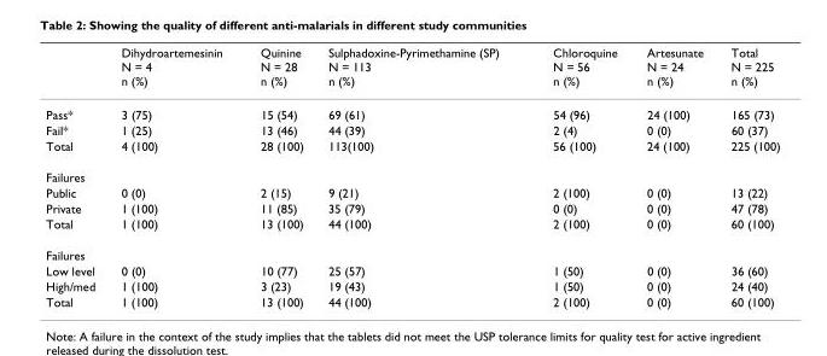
<table><thead><tr><td></td><td>Dihydroartemesinin N = 4 n (%)</td><td>Quinine N = 28 n (%)</td><td>Sulphadoxine-Pyrimethamine (SP) N = 113 n (%)</td><td>Chloroquine N = 56 n (%)</td><td>Artesunate N = 24 n (%)</td><td>Total N = 225 n (%)</td></tr></thead><tbody><tr><td>Pass*</td><td>3 (75)</td><td>15 (54)</td><td>69 (61)</td><td>54 (96)</td><td>24 (100)</td><td>165 (73)</td></tr><tr><td>Fail*</td><td>1 (25)</td><td>13 (46)</td><td>44 (39)</td><td>2 (4)</td><td>0 (0)</td><td>60 (37)</td></tr><tr><td>Total</td><td>4 (100)</td><td>28 (100)</td><td>113(100)</td><td>56 (100)</td><td>24 (100)</td><td>225 (100)</td></tr><tr><td colspan="7">Failures</td></tr><tr><td>Public</td><td>0 (0)</td><td>2 (15)</td><td>9 (21)</td><td>2 (100)</td><td>0 (0)</td><td>13 (22)</td></tr><tr><td>Private</td><td>1 (100)</td><td>11 (85)</td><td>35 (79)</td><td>0 (0)</td><td>0 (0)</td><td>47 (78)</td></tr><tr><td>Total</td><td>1 (100)</td><td>13 (100)</td><td>44 (100)</td><td>2 (100)</td><td>0 (0)</td><td>60 (100)</td></tr><tr><td colspan="7">Failures</td></tr><tr><td>Low level</td><td>0 (0)</td><td>10 (77)</td><td>25 (57)</td><td>1 (50)</td><td>0 (0)</td><td>36 (60)</td></tr><tr><td>High/med</td><td>1 (100)</td><td>3 (23)</td><td>19 (43)</td><td>1 (50)</td><td>0 (0)</td><td>24 (40)</td></tr><tr><td>Total</td><td>1 (100)</td><td>13 (100)</td><td>44 (100)</td><td>2 (100)</td><td>0 (0)</td><td>60 (100)</td></tr></tbody></table>